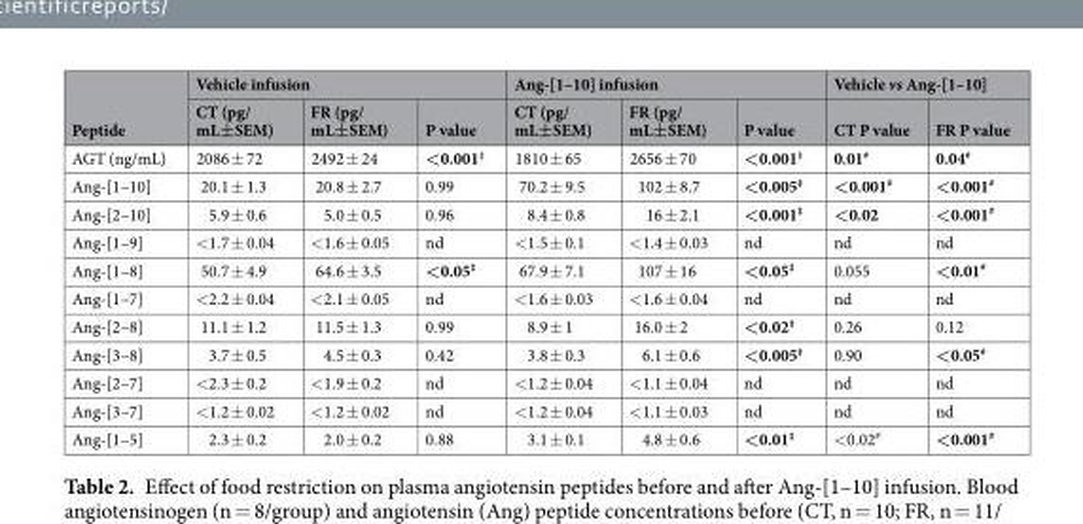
<table><thead><tr><td rowspan="2">Peptide</td><td colspan="3">Vehicle infusion</td><td colspan="3">Ang-[1–10] infusion</td><td colspan="2">Vehicle vs Ang-[1–10]</td></tr><tr><td>CT (pg/ mL±SEM)</td><td>FR (pg/ mL±SEM)</td><td>P value</td><td>CT (pg/ mL±SEM)</td><td>FR (pg/ mL±SEM)</td><td>P value</td><td>CT P value</td><td>FR P value</td></tr></thead><tbody><tr><td>AGT (ng/mL)</td><td>2086 ± 72</td><td>2492 ± 24</td><td>&lt;0.001<sup>‡</sup></td><td>1810 ± 65</td><td>2656 ± 70</td><td>&lt;0.001<sup>‡</sup></td><td>0.01<sup>#</sup></td><td>0.04<sup>#</sup></td></tr><tr><td>Ang-[1–10]</td><td>20.1 ± 1.3</td><td>20.8 ± 2.7</td><td>0.99</td><td>70.2 ± 9.5</td><td>102 ± 8.7</td><td>&lt;0.005<sup>‡</sup></td><td>&lt;0.001<sup>#</sup></td><td>&lt;0.001<sup>#</sup></td></tr><tr><td>Ang-[2–10]</td><td>5.9 ± 0.6</td><td>5.0 ± 0.5</td><td>0.96</td><td>8.4 ± 0.8</td><td>16 ± 2.1</td><td>&lt;0.001<sup>‡</sup></td><td>&lt;0.02</td><td>&lt;0.001<sup>#</sup></td></tr><tr><td>Ang-[1–9]</td><td>&lt;1.7 ± 0.04</td><td>&lt;1.6 ± 0.05</td><td>nd</td><td>&lt;1.5 ± 0.1</td><td>&lt;1.4 ± 0.03</td><td>nd</td><td>nd</td><td>nd</td></tr><tr><td>Ang-[1–8]</td><td>50.7 ± 4.9</td><td>64.6 ± 3.5</td><td>&lt;0.05<sup>‡</sup></td><td>67.9 ± 7.1</td><td>107 ± 16</td><td>&lt;0.05<sup>‡</sup></td><td>0.055</td><td>&lt;0.01<sup>#</sup></td></tr><tr><td>Ang-[1–7]</td><td>&lt;2.2 ± 0.04</td><td>&lt;2.1 ± 0.05</td><td>nd</td><td>&lt;1.6 ± 0.03</td><td>&lt;1.6 ± 0.04</td><td>nd</td><td>nd</td><td>nd</td></tr><tr><td>Ang-[2–8]</td><td>11.1 ± 1.2</td><td>11.5 ± 1.3</td><td>0.99</td><td>8.9 ± 1</td><td>16.0 ± 2</td><td>&lt;0.02<sup>‡</sup></td><td>0.26</td><td>0.12</td></tr><tr><td>Ang-[3–8]</td><td>3.7 ± 0.5</td><td>4.5 ± 0.3</td><td>0.42</td><td>3.8 ± 0.3</td><td>6.1 ± 0.6</td><td>&lt;0.005<sup>‡</sup></td><td>0.90</td><td>&lt;0.05<sup>#</sup></td></tr><tr><td>Ang-[2–7]</td><td>&lt;2.3 ± 0.2</td><td>&lt;1.9 ± 0.2</td><td>nd</td><td>&lt;1.2 ± 0.04</td><td>&lt;1.1 ± 0.04</td><td>nd</td><td>nd</td><td>nd</td></tr><tr><td>Ang-[3–7]</td><td>&lt;1.2 ± 0.02</td><td>&lt;1.2 ± 0.02</td><td>nd</td><td>&lt;1.2 ± 0.04</td><td>&lt;1.1 ± 0.03</td><td>nd</td><td>nd</td><td>nd</td></tr><tr><td>Ang-[1–5]</td><td>2.3 ± 0.2</td><td>2.0 ± 0.2</td><td>0.88</td><td>3.1 ± 0.1</td><td>4.8 ± 0.6</td><td>&lt;0.01<sup>‡</sup></td><td>&lt;0.02<sup>#</sup></td><td>&lt;0.001<sup>#</sup></td></tr></tbody></table>